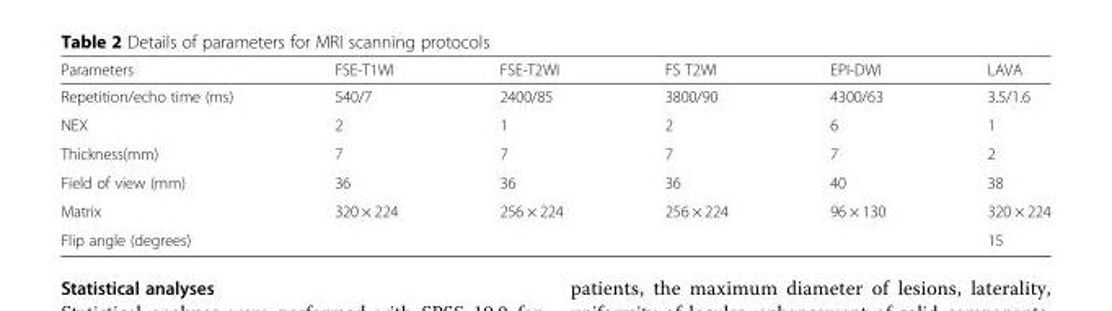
<table><thead><tr><td>Parameters</td><td>FSE-T1WI</td><td>FSE-T2WI</td><td>FS T2WI</td><td>EPI-DWI</td><td>LAVA</td></tr></thead><tbody><tr><td>Repetition/echo time (ms)</td><td>540/7</td><td>2400/85</td><td>3800/90</td><td>4300/63</td><td>3.5/1.6</td></tr><tr><td>NEX</td><td>2</td><td>1</td><td>2</td><td>6</td><td>1</td></tr><tr><td>Thickness(mm)</td><td>7</td><td>7</td><td>7</td><td>7</td><td>2</td></tr><tr><td>Field of view (mm)</td><td>36</td><td>36</td><td>36</td><td>40</td><td>38</td></tr><tr><td>Matrix</td><td>320 × 224</td><td>256 × 224</td><td>256 × 224</td><td>96 × 130</td><td>320 × 224</td></tr><tr><td>Flip angle (degrees)</td><td></td><td></td><td></td><td></td><td>15</td></tr></tbody></table>